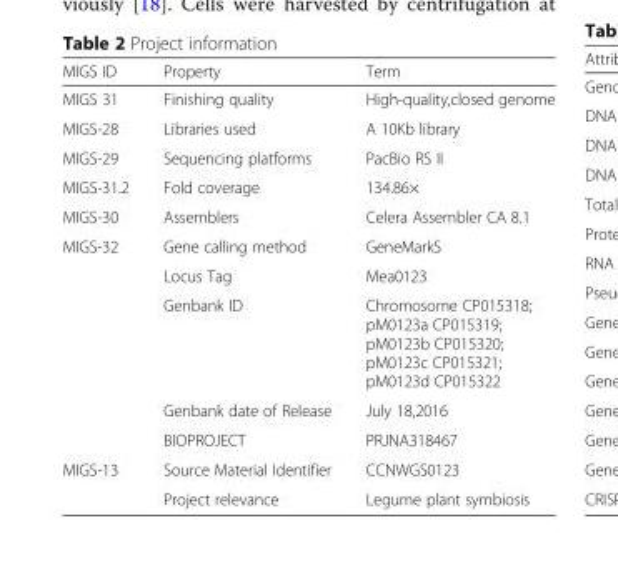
<table><thead><tr><td>MIGS ID</td><td>Property</td><td>Term</td></tr></thead><tbody><tr><td>MIGS 31</td><td>Finishing quality</td><td>High-quality,closed genome</td></tr><tr><td>MIGS-28</td><td>Libraries used</td><td>A 10Kb library</td></tr><tr><td>MIGS-29</td><td>Sequencing platforms</td><td>PacBio RS II</td></tr><tr><td>MIGS-31.2</td><td>Fold coverage</td><td>134.86×</td></tr><tr><td>MIGS-30</td><td>Assemblers</td><td>Celera Assembler CA 8.1</td></tr><tr><td rowspan="5">MIGS-32</td><td>Gene calling method</td><td>GeneMarkS</td></tr><tr><td>Locus Tag</td><td>Mea0123</td></tr><tr><td>Genbank ID</td><td>Chromosome CP015318; pM0123a CP015319; pM0123b CP015320; pM0123c CP015321; pM0123d CP015322</td></tr><tr><td>Genbank date of Release</td><td>July 18,2016</td></tr><tr><td>BIOPROJECT</td><td>PRJNA318467</td></tr><tr><td rowspan="2">MIGS-13</td><td>Source Material Identifier</td><td>CCNWGS0123</td></tr><tr><td>Project relevance</td><td>Legume plant symbiosis</td></tr></tbody></table>